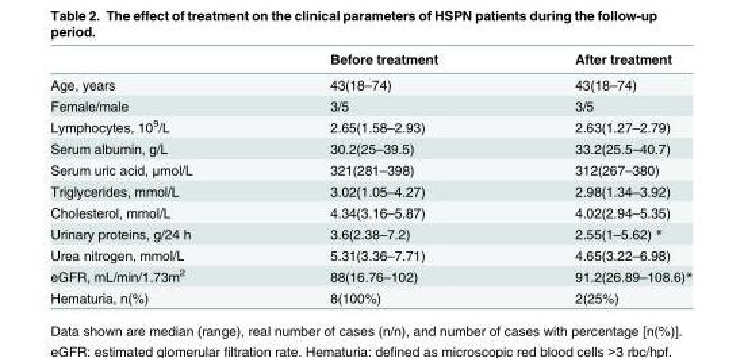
<table><thead><tr><td></td><td>Before treatment</td><td>After treatment</td></tr></thead><tbody><tr><td>Age, years</td><td>43(18–74)</td><td>43(18–74)</td></tr><tr><td>Female/male</td><td>3/5</td><td>3/5</td></tr><tr><td>Lymphocytes, 10<sup>9</sup>/L</td><td>2.65(1.58–2.93)</td><td>2.63(1.27–2.79)</td></tr><tr><td>Serum albumin, g/L</td><td>30.2(25–39.5)</td><td>33.2(25.5–40.7)</td></tr><tr><td>Serum uric acid, μmol/L</td><td>321(281–398)</td><td>312(267–380)</td></tr><tr><td>Triglycerides, mmol/L</td><td>3.02(1.05–4.27)</td><td>2.98(1.34–3.92)</td></tr><tr><td>Cholesterol, mmol/L</td><td>4.34(3.16–5.87)</td><td>4.02(2.94–5.35)</td></tr><tr><td>Urinary proteins, g/24 h</td><td>3.6(2.38–7.2)</td><td>2.55(1–5.62) *</td></tr><tr><td>Urea nitrogen, mmol/L</td><td>5.31(3.36–7.71)</td><td>4.65(3.22–6.98)</td></tr><tr><td>eGFR, mL/min/1.73m<sup>2</sup></td><td>88(16.76–102)</td><td>91.2(26.89–108.6)*</td></tr><tr><td>Hematuria, n(%)</td><td>8(100%)</td><td>2(25%)</td></tr></tbody></table>